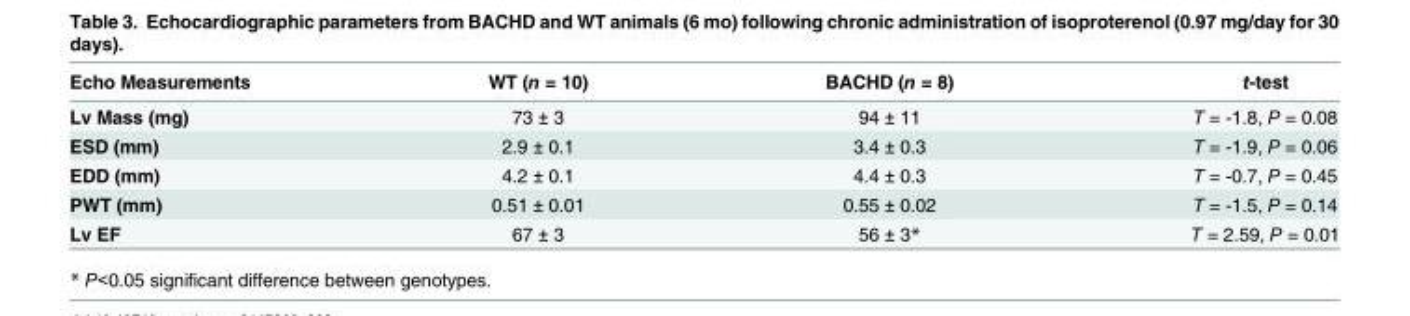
<table><thead><tr><td>Echo Measurements</td><td>WT (n = 10)</td><td>BACHD (n = 8)</td><td>t-test</td></tr></thead><tbody><tr><td>Lv Mass (mg)</td><td>73 ± 3</td><td>94 ± 11</td><td>T = -1.8, P = 0.08</td></tr><tr><td>ESD (mm)</td><td>2.9 ± 0.1</td><td>3.4 ± 0.3</td><td>T = -1.9, P = 0.06</td></tr><tr><td>EDD (mm)</td><td>4.2 ± 0.1</td><td>4.4 ± 0.3</td><td>T = -0.7, P = 0.45</td></tr><tr><td>PWT (mm)</td><td>0.51 ± 0.01</td><td>0.55 ± 0.02</td><td>T = -1.5, P = 0.14</td></tr><tr><td>Lv EF</td><td>67 ± 3</td><td>56 ± 3*</td><td>T = 2.59, P = 0.01</td></tr></tbody></table>